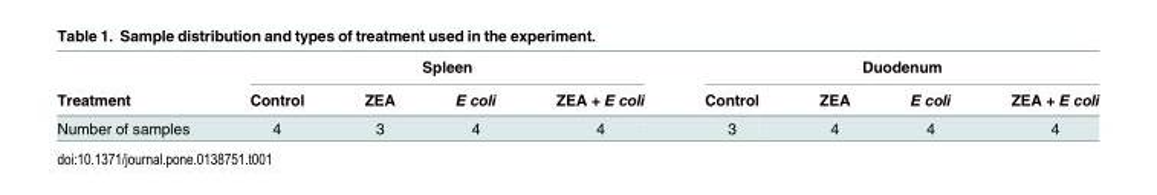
<table><thead><tr><td rowspan="2">Treatment</td><td colspan="4">Spleen</td><td colspan="4">Duodenum</td></tr><tr><td>Control</td><td>ZEA</td><td>E coli</td><td>ZEA + E coli</td><td>Control</td><td>ZEA</td><td>E coli</td><td>ZEA + E coli</td></tr></thead><tbody><tr><td>Number of samples</td><td>4</td><td>3</td><td>4</td><td>4</td><td>3</td><td>4</td><td>4</td><td>4</td></tr></tbody></table>